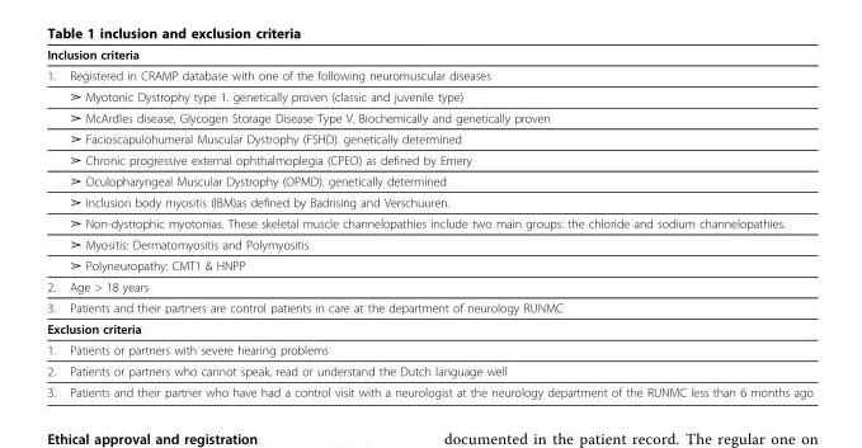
<table><thead><tr><td colspan="2">Inclusion criteria</td></tr><tr><td>1.</td><td>Registered in CRAMP database with one of the following neuromuscular diseases</td></tr></thead><tbody><tr><td></td><td>➢ Myotonic Dystrophy type 1. genetically proven (classic and juvenile type)</td></tr><tr><td></td><td>➢ McArdles disease, Glycogen Storage Disease Type V. Biochemically and genetically proven</td></tr><tr><td></td><td>➢ Facioscapulohumeral Muscular Dystrophy (FSHD). genetically determined</td></tr><tr><td></td><td>➢ Chronic progressive external ophthalmoplegia (CPEO) as defined by Emery</td></tr><tr><td></td><td>➢ Oculopharyngeal Muscular Dystrophy (OPMD). genetically determined</td></tr><tr><td></td><td>➢ Inclusion body myositis (IBM)as defined by Badrising and Verschuuren.</td></tr><tr><td></td><td>➢ Non-dystrophic myotonias. These skeletal muscle channelopathies include two main groups: the chloride and sodium channelopathies.</td></tr><tr><td></td><td>➢ Myositis: Dermatomyositis and Polymyositis</td></tr><tr><td></td><td>➢ Polyneuropathy: CMT1 &amp; HNPP</td></tr><tr><td>2.</td><td>Age &gt; 18 years</td></tr><tr><td>3.</td><td>Patients and their partners are control patients in care at the department of neurology RUNMC</td></tr><tr><td colspan="2">Exclusion criteria</td></tr><tr><td>1.</td><td>Patients or partners with severe hearing problems</td></tr><tr><td>2.</td><td>Patients or partners who cannot speak, read or understand the Dutch language well</td></tr><tr><td>3.</td><td>Patients and their partner who have had a control visit with a neurologist at the neurology department of the RUNMC less than 6 months ago</td></tr></tbody></table>